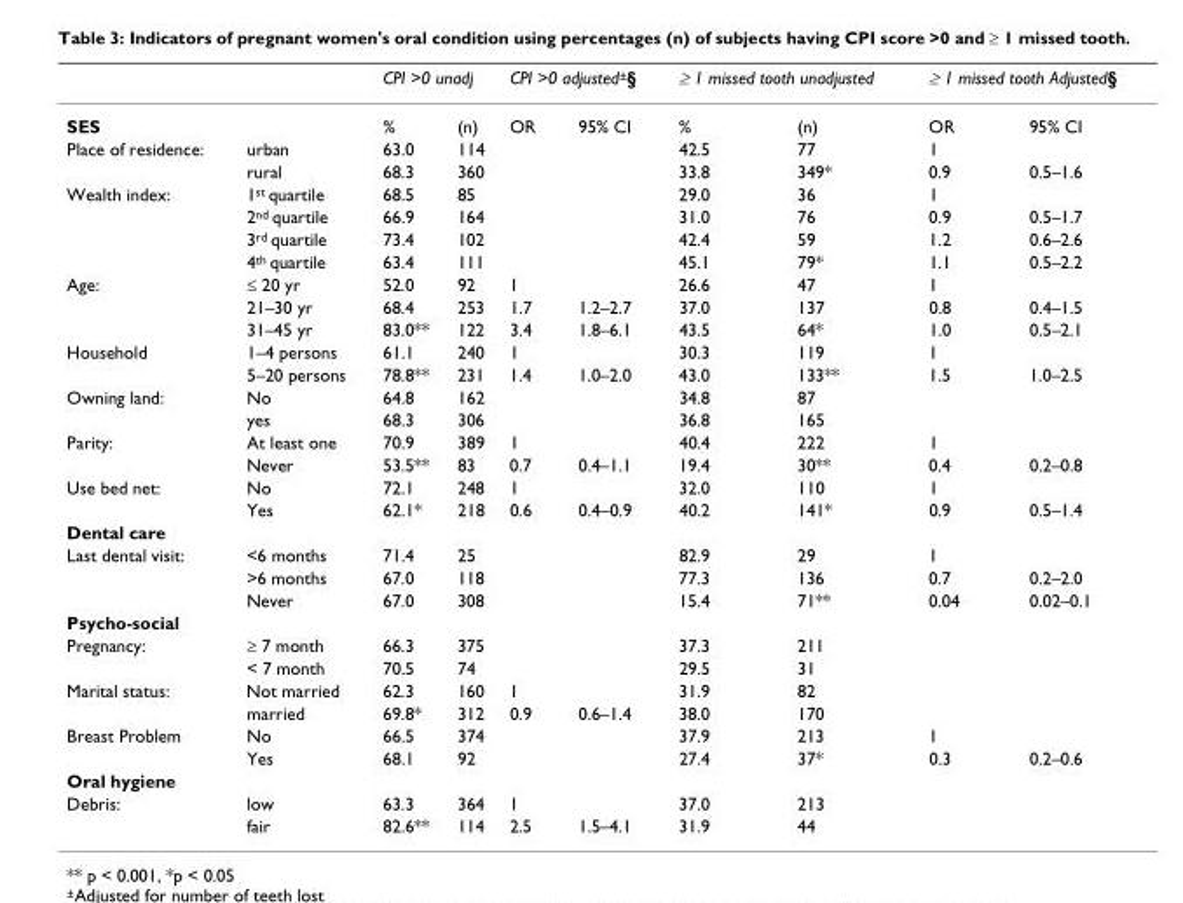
<table><thead><tr><td rowspan="2">SES</td><td rowspan="2"></td><td colspan="2">CPI &gt;0 unadj</td><td colspan="2">CPI &gt;0 adjusted<sup>±</sup>§</td><td colspan="2">≥ 1 missed tooth unadjusted</td><td colspan="2">≥ 1 missed tooth Adjusted§</td></tr><tr><td>%</td><td>(n)</td><td>OR</td><td>95% CI</td><td>%</td><td>(n)</td><td>OR</td><td>95% CI</td></tr></thead><tbody><tr><td rowspan="2">Place of residence:</td><td>urban</td><td>63.0</td><td>114</td><td></td><td></td><td>42.5</td><td>77</td><td>1</td><td></td></tr><tr><td>rural</td><td>68.3</td><td>360</td><td></td><td></td><td>33.8</td><td>349*</td><td>0.9</td><td>0.5–1.6</td></tr><tr><td rowspan="4">Wealth index:</td><td>1<sup>st</sup> quartile</td><td>68.5</td><td>85</td><td></td><td></td><td>29.0</td><td>36</td><td>1</td><td></td></tr><tr><td>2<sup>nd</sup> quartile</td><td>66.9</td><td>164</td><td></td><td></td><td>31.0</td><td>76</td><td>0.9</td><td>0.5–1.7</td></tr><tr><td>3<sup>rd</sup> quartile</td><td>73.4</td><td>102</td><td></td><td></td><td>42.4</td><td>59</td><td>1.2</td><td>0.6–2.6</td></tr><tr><td>4<sup>th</sup> quartile</td><td>63.4</td><td>111</td><td></td><td></td><td>45.1</td><td>79*</td><td>1.1</td><td>0.5–2.2</td></tr><tr><td rowspan="3">Age:</td><td>≤ 20 yr</td><td>52.0</td><td>92</td><td>1</td><td></td><td>26.6</td><td>47</td><td>1</td><td></td></tr><tr><td>21–30 yr</td><td>68.4</td><td>253</td><td>1.7</td><td>1.2–2.7</td><td>37.0</td><td>137</td><td>0.8</td><td>0.4–1.5</td></tr><tr><td>31–45 yr</td><td>83.0**</td><td>122</td><td>3.4</td><td>1.8–6.1</td><td>43.5</td><td>64*</td><td>1.0</td><td>0.5–2.1</td></tr><tr><td rowspan="2">Household</td><td>1–4 persons</td><td>61.1</td><td>240</td><td>1</td><td></td><td>30.3</td><td>119</td><td>1</td><td></td></tr><tr><td>5–20 persons</td><td>78.8**</td><td>231</td><td>1.4</td><td>1.0–2.0</td><td>43.0</td><td>133**</td><td>1.5</td><td>1.0–2.5</td></tr><tr><td rowspan="2">Owning land:</td><td>No</td><td>64.8</td><td>162</td><td></td><td></td><td>34.8</td><td>87</td><td></td><td></td></tr><tr><td>yes</td><td>68.3</td><td>306</td><td></td><td></td><td>36.8</td><td>165</td><td></td><td></td></tr><tr><td rowspan="2">Parity:</td><td>At least one</td><td>70.9</td><td>389</td><td>1</td><td></td><td>40.4</td><td>222</td><td>1</td><td></td></tr><tr><td>Never</td><td>53.5**</td><td>83</td><td>0.7</td><td>0.4–1.1</td><td>19.4</td><td>30**</td><td>0.4</td><td>0.2–0.8</td></tr><tr><td rowspan="2">Use bed net:</td><td>No</td><td>72.1</td><td>248</td><td>1</td><td></td><td>32.0</td><td>110</td><td>1</td><td></td></tr><tr><td>Yes</td><td>62.1*</td><td>218</td><td>0.6</td><td>0.4–0.9</td><td>40.2</td><td>141*</td><td>0.9</td><td>0.5–1.4</td></tr><tr><td colspan="10">Dental care</td></tr><tr><td rowspan="3">Last dental visit:</td><td>&lt;6 months</td><td>71.4</td><td>25</td><td></td><td></td><td>82.9</td><td>29</td><td>1</td><td></td></tr><tr><td>&gt;6 months</td><td>67.0</td><td>118</td><td></td><td></td><td>77.3</td><td>136</td><td>0.7</td><td>0.2–2.0</td></tr><tr><td>Never</td><td>67.0</td><td>308</td><td></td><td></td><td>15.4</td><td>71**</td><td>0.04</td><td>0.02–0.1</td></tr><tr><td colspan="10">Psycho-social</td></tr><tr><td rowspan="2">Pregnancy:</td><td>≥ 7 month</td><td>66.3</td><td>375</td><td></td><td></td><td>37.3</td><td>211</td><td></td><td></td></tr><tr><td>&lt; 7 month</td><td>70.5</td><td>74</td><td></td><td></td><td>29.5</td><td>31</td><td></td><td></td></tr><tr><td rowspan="2">Marital status:</td><td>Not married</td><td>62.3</td><td>160</td><td>1</td><td></td><td>31.9</td><td>82</td><td></td><td></td></tr><tr><td>married</td><td>69.8*</td><td>312</td><td>0.9</td><td>0.6–1.4</td><td>38.0</td><td>170</td><td></td><td></td></tr><tr><td rowspan="2">Breast Problem</td><td>No</td><td>66.5</td><td>374</td><td></td><td></td><td>37.9</td><td>213</td><td>1</td><td></td></tr><tr><td>Yes</td><td>68.1</td><td>92</td><td></td><td></td><td>27.4</td><td>37*</td><td>0.3</td><td>0.2–0.6</td></tr><tr><td colspan="10">Oral hygiene</td></tr><tr><td rowspan="2">Debris:</td><td>low</td><td>63.3</td><td>364</td><td>1</td><td></td><td>37.0</td><td>213</td><td></td><td></td></tr><tr><td>fair</td><td>82.6**</td><td>114</td><td>2.5</td><td>1.5–4.1</td><td>31.9</td><td>44</td><td></td><td></td></tr></tbody></table>